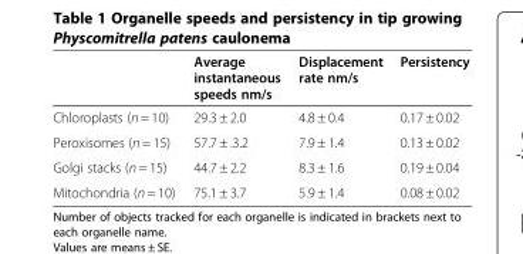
<table><thead><tr><td></td><td>Average instantaneous speeds nm/s</td><td>Displacement rate nm/s</td><td>Persistency</td></tr></thead><tbody><tr><td>Chloroplasts (n = 10)</td><td>29.3 ± 2.0</td><td>4.8 ± 0.4</td><td>0.17 ± 0.02</td></tr><tr><td>Peroxisomes (n = 15)</td><td>57.7 ± .3.2</td><td>7.9 ± 1.4</td><td>0.13 ± 0.02</td></tr><tr><td>Golgi stacks (n = 15)</td><td>44.7 ± 2.2</td><td>8.3 ± 1.6</td><td>0.19 ± 0.04</td></tr><tr><td>Mitochondria (n = 10)</td><td>75.1 ± 3.7</td><td>5.9 ± 1.4</td><td>0.08 ± 0.02</td></tr></tbody></table>